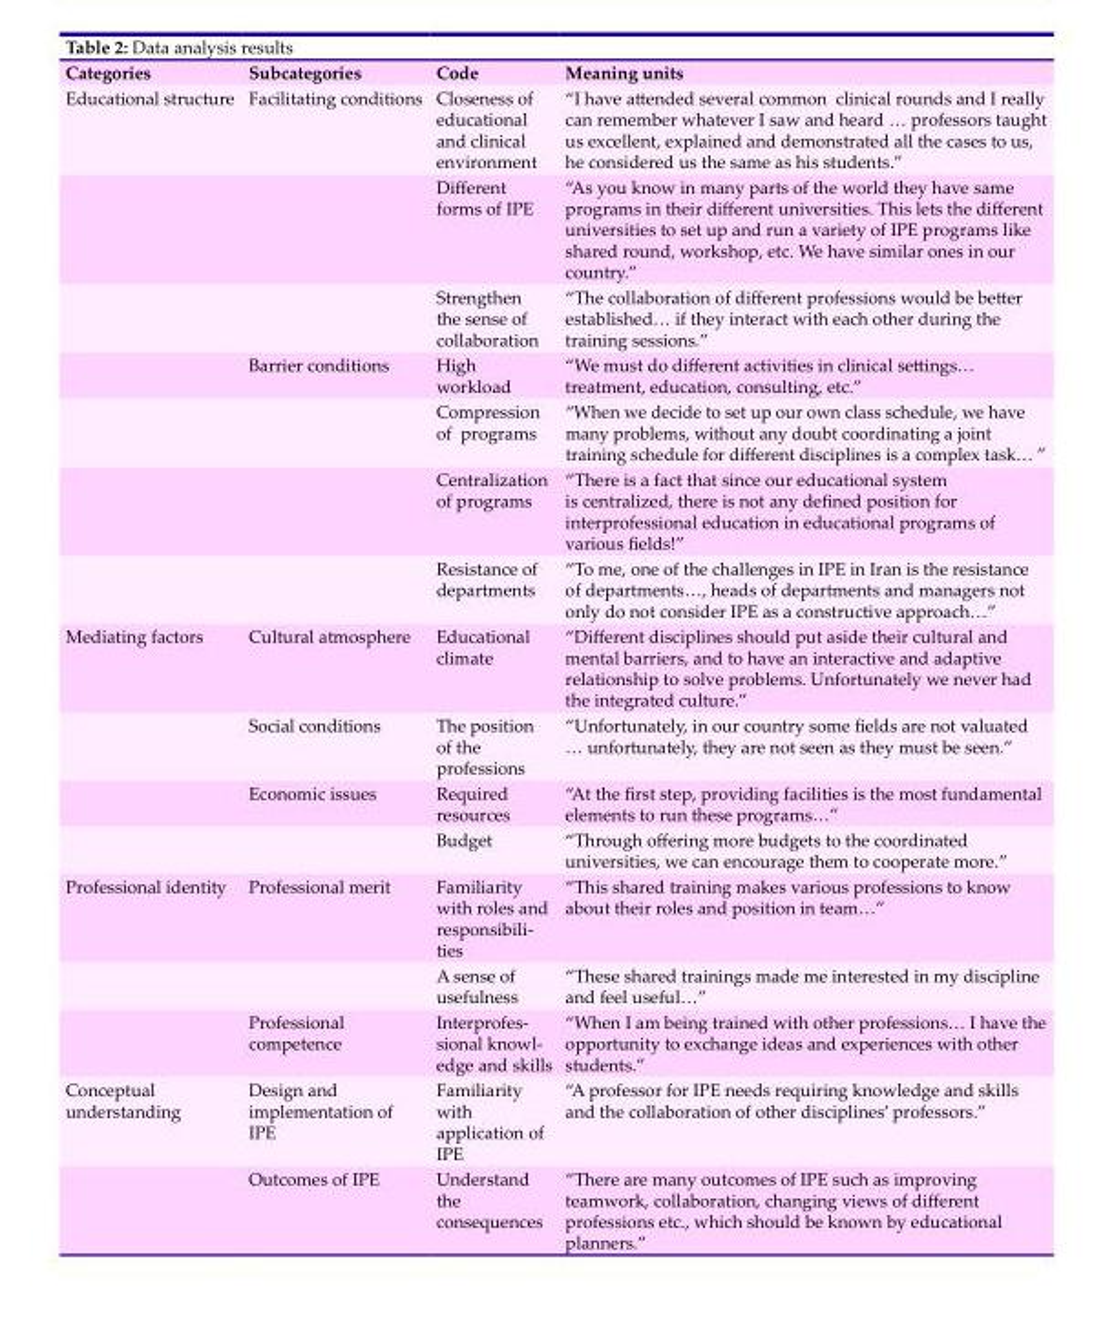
<table><thead><tr><td>Categories</td><td>Subcategories</td><td>Code</td><td>Meaning units</td></tr></thead><tbody><tr><td rowspan="7">Educational structure</td><td>Facilitating conditions</td><td>Closeness of educational and clinical environment</td><td>“I have attended several common clinical rounds and I really can remember whatever I saw and heard … professors taught us excellent, explained and demonstrated all the cases to us, he considered us the same as his students.”</td></tr><tr><td></td><td>Different forms of IPE</td><td>“As you know in many parts of the world they have same programs in their different universities. This lets the different universities to set up and run a variety of IPE programs like shared round, workshop, etc. We have similar ones in our country.”</td></tr><tr><td></td><td>Strengthen the sense of collaboration</td><td>“The collaboration of different professions would be better established… if they interact with each other during the training sessions.”</td></tr><tr><td>Barrier conditions</td><td>High workload</td><td>“We must do different activities in clinical settings… treatment, education, consulting, etc.”</td></tr><tr><td></td><td>Compression of programs</td><td>“When we decide to set up our own class schedule, we have many problems, without any doubt coordinating a joint training schedule for different disciplines is a complex task… ”</td></tr><tr><td></td><td>Centralization of programs</td><td>“There is a fact that since our educational system is centralized, there is not any defined position for interprofessional education in educational programs of various fields!”</td></tr><tr><td></td><td>Resistance of departments</td><td>“To me, one of the challenges in IPE in Iran is the resistance of departments…, heads of departments and managers not only do not consider IPE as a constructive approach…”</td></tr><tr><td rowspan="4">Mediating factors</td><td>Cultural atmosphere</td><td>Educational climate</td><td>“Different disciplines should put aside their cultural and mental barriers, and to have an interactive and adaptive relationship to solve problems. Unfortunately we never had the integrated culture.”</td></tr><tr><td>Social conditions</td><td>The position of the professions</td><td>“Unfortunately, in our country some fields are not valuated … unfortunately, they are not seen as they must be seen.”</td></tr><tr><td>Economic issues</td><td>Required resources</td><td>“At the first step, providing facilities is the most fundamental elements to run these programs…”</td></tr><tr><td></td><td>Budget</td><td>“Through offering more budgets to the coordinated universities, we can encourage them to cooperate more.”</td></tr><tr><td rowspan="3">Professional identity</td><td>Professional merit</td><td>Familiarity with roles and responsibili- ties</td><td>“This shared training makes various professions to know about their roles and position in team…”</td></tr><tr><td></td><td>A sense of usefulness</td><td>“These shared trainings made me interested in my discipline and feel useful…”</td></tr><tr><td>Professional competence</td><td>Interprofes- sional knowl- edge and skills</td><td>“When I am being trained with other professions… I have the opportunity to exchange ideas and experiences with other students.”</td></tr><tr><td rowspan="2">Conceptual understanding</td><td>Design and implementation of IPE</td><td>Familiarity with application of IPE</td><td>“A professor for IPE needs requiring knowledge and skills and the collaboration of other disciplines’ professors.”</td></tr><tr><td>Outcomes of IPE</td><td>Understand the consequences</td><td>“There are many outcomes of IPE such as improving teamwork, collaboration, changing views of different professions etc., which should be known by educational planners.”</td></tr></tbody></table>